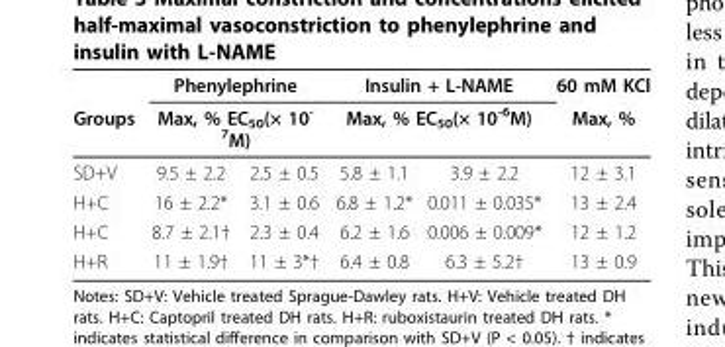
<table><thead><tr><td rowspan="3">Groups SD+V</td><td rowspan="2" colspan="2">Phenylephrine Max, % EC<sub>50</sub>(× 10<sup>- 7</sup>M)</td><td rowspan="2" colspan="2">Insulin + L-NAME Max, % EC<sub>50</sub>(× 10<sup>-6</sup>M)</td><td rowspan="3">60 mM KCl Max, % 12 ± 3.1</td></tr><tr></tr><tr><td>9.5 ± 2.2</td><td>2.5 ± 0.5</td><td>5.8 ± 1.1</td><td>3.9 ± 2.2</td></tr></thead><tbody><tr><td>H+C</td><td>16 ± 2.2*</td><td>3.1 ± 0.6</td><td>6.8 ± 1.2*</td><td>0.011 ± 0.035*</td><td>13 ± 2.4</td></tr><tr><td>H+C</td><td>8.7 ± 2.1†</td><td>2.3 ± 0.4</td><td>6.2 ± 1.6</td><td>0.006 ± 0.009*</td><td>12 ± 1.2</td></tr><tr><td>H+R</td><td>11 ± 1.9†</td><td>11 ± 3*†</td><td>6.4 ± 0.8</td><td>6.3 ± 5.2†</td><td>13 ± 0.9</td></tr></tbody></table>